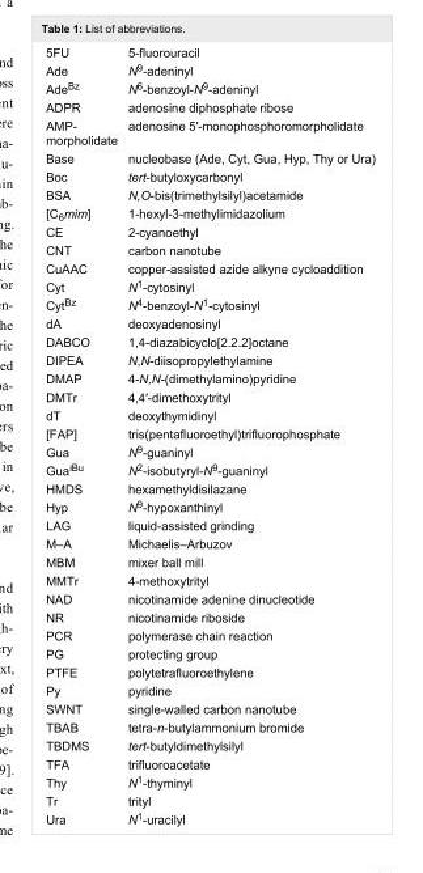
<table><tbody><tr><td>5FU</td><td>5-fluorouracil</td></tr><tr><td>Ade</td><td>N<sup>9</sup>-adeninyl</td></tr><tr><td>Ade<sup>Bz</sup></td><td>N<sup>6</sup>-benzoyl-N<sup>9</sup>-adeninyl</td></tr><tr><td>ADPR</td><td>adenosine diphosphate ribose</td></tr><tr><td>AMP- morpholidate</td><td>adenosine 5′-monophosphoromorpholidate</td></tr><tr><td>Base</td><td>nucleobase (Ade, Cyt, Gua, Hyp, Thy or Ura)</td></tr><tr><td>Boc</td><td>tert-butyloxycarbonyl</td></tr><tr><td>BSA</td><td>N,O-bis(trimethylsilyl)acetamide</td></tr><tr><td>[C<sub>6</sub>mim]</td><td>1-hexyl-3-methylimidazolium</td></tr><tr><td>CE</td><td>2-cyanoethyl</td></tr><tr><td>CNT</td><td>carbon nanotube</td></tr><tr><td>CuAAC</td><td>copper-assisted azide alkyne cycloaddition</td></tr><tr><td>Cyt</td><td>N<sup>1</sup>-cytosinyl</td></tr><tr><td>Cyt<sup>Bz</sup></td><td>N<sup>4</sup>-benzoyl-N<sup>1</sup>-cytosinyl</td></tr><tr><td>dA</td><td>deoxyadenosinyl</td></tr><tr><td>DABCO</td><td>1,4-diazabicyclo[2.2.2]octane</td></tr><tr><td>DIPEA</td><td>N,N-diisopropylethylamine</td></tr><tr><td>DMAP</td><td>4-N,N-(dimethylamino)pyridine</td></tr><tr><td>DMTr</td><td>4,4′-dimethoxytrityl</td></tr><tr><td>dT</td><td>deoxythymidinyl</td></tr><tr><td>[FAP]</td><td>tris(pentafluoroethyl)trifluorophosphate</td></tr><tr><td>Gua</td><td>N<sup>9</sup>-guaninyl</td></tr><tr><td>Gua<sup>iBu</sup></td><td>N<sup>2</sup>-isobutyryl-N<sup>9</sup>-guaninyl</td></tr><tr><td>HMDS</td><td>hexamethyldisilazane</td></tr><tr><td>Hyp</td><td>N<sup>9</sup>-hypoxanthinyl</td></tr><tr><td>LAG</td><td>liquid-assisted grinding</td></tr><tr><td>M–A</td><td>Michaelis–Arbuzov</td></tr><tr><td>MBM</td><td>mixer ball mill</td></tr><tr><td>MMTr</td><td>4-methoxytrityl</td></tr><tr><td>NAD</td><td>nicotinamide adenine dinucleotide</td></tr><tr><td>NR</td><td>nicotinamide riboside</td></tr><tr><td>PCR</td><td>polymerase chain reaction</td></tr><tr><td>PG</td><td>protecting group</td></tr><tr><td>PTFE</td><td>polytetrafluoroethylene</td></tr><tr><td>Py</td><td>pyridine</td></tr><tr><td>SWNT</td><td>single-walled carbon nanotube</td></tr><tr><td>TBAB</td><td>tetra-n-butylammonium bromide</td></tr><tr><td>TBDMS</td><td>tert-butyldimethylsilyl</td></tr><tr><td>TFA</td><td>trifluoroacetate</td></tr><tr><td>Thy</td><td>N<sup>1</sup>-thyminyl</td></tr><tr><td>Tr</td><td>trityl</td></tr><tr><td>Ura</td><td>N<sup>1</sup>-uracilyl</td></tr></tbody></table>